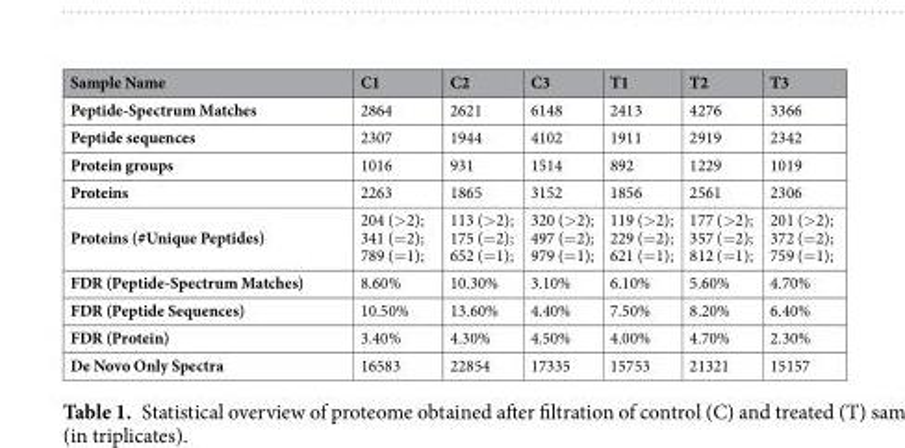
<table><thead><tr><td>Sample Name</td><td>C1</td><td>C2</td><td>C3</td><td>T1</td><td>T2</td><td>T3</td></tr></thead><tbody><tr><td>Peptide-Spectrum Matches</td><td>2864</td><td>2621</td><td>6148</td><td>2413</td><td>4276</td><td>3366</td></tr><tr><td>Peptide sequences</td><td>2307</td><td>1944</td><td>4102</td><td>1911</td><td>2919</td><td>2342</td></tr><tr><td>Protein groups</td><td>1016</td><td>931</td><td>1514</td><td>892</td><td>1229</td><td>1019</td></tr><tr><td>Proteins</td><td>2263</td><td>1865</td><td>3152</td><td>1856</td><td>2561</td><td>2306</td></tr><tr><td>Proteins (#Unique Peptides)</td><td>204 (&gt;2); 341 (=2); 789 (=1);</td><td>113 (&gt;2); 175 (=2); 652 (=1);</td><td>320 (&gt;2); 497 (=2); 979 (=1);</td><td>119 (&gt;2); 229 (=2); 621 (=1);</td><td>177 (&gt;2); 357 (=2); 812 (=1);</td><td>201 (&gt;2); 372 (=2); 759 (=1);</td></tr><tr><td>FDR (Peptide-Spectrum Matches)</td><td>8.60%</td><td>10.30%</td><td>3.10%</td><td>6.10%</td><td>5.60%</td><td>4.70%</td></tr><tr><td>FDR (Peptide Sequences)</td><td>10.50%</td><td>13.60%</td><td>4.40%</td><td>7.50%</td><td>8.20%</td><td>6.40%</td></tr><tr><td>FDR (Protein)</td><td>3.40%</td><td>4.30%</td><td>4.50%</td><td>4.00%</td><td>4.70%</td><td>2.30%</td></tr><tr><td>De Novo Only Spectra</td><td>16583</td><td>22854</td><td>17335</td><td>15753</td><td>21321</td><td>15157</td></tr></tbody></table>